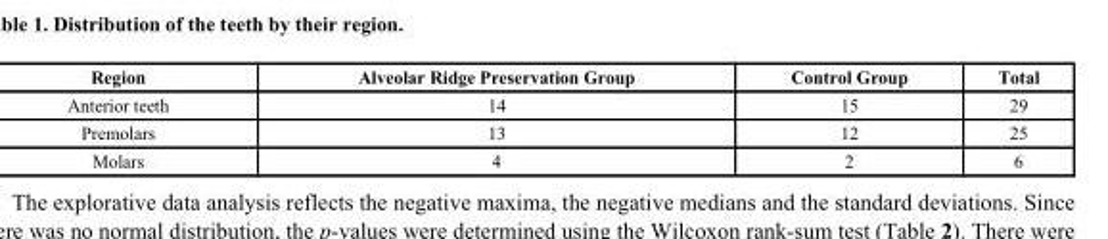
<table><thead><tr><td>Region</td><td>Alveolar Ridge Preservation Group</td><td>Control Group</td><td>Total</td></tr></thead><tbody><tr><td>Anterior teeth</td><td>14</td><td>15</td><td>29</td></tr><tr><td>Premolars</td><td>13</td><td>12</td><td>25</td></tr><tr><td>Molars</td><td>4</td><td>2</td><td>6</td></tr></tbody></table>